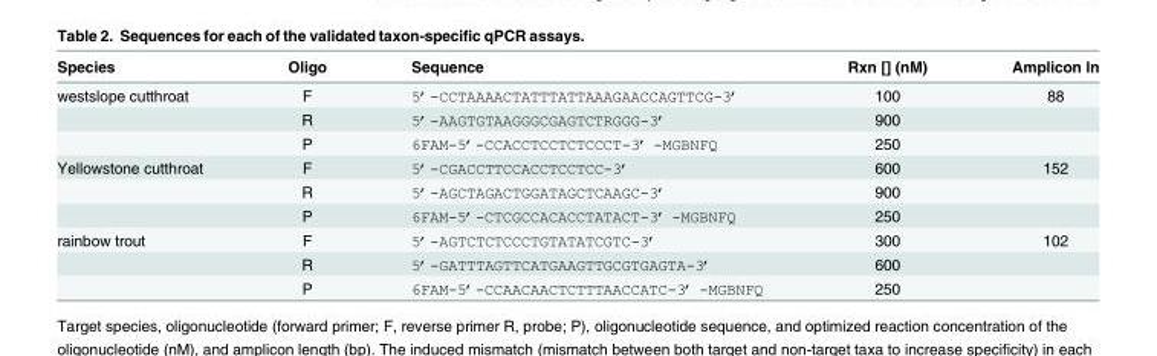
<table><thead><tr><td>Species</td><td>Oligo</td><td>Sequence</td><td>Rxn [] (nM)</td><td>Amplicon ln</td></tr></thead><tbody><tr><td rowspan="3">westslope cutthroat</td><td>F</td><td>5’-CCTAAAACTATTTATTAAAGAACCAGTTCG-3’</td><td>100</td><td>88</td></tr><tr><td>R</td><td>5’-AAGTGTAAGGGCGAGTCTRGGG-3’</td><td>900</td><td></td></tr><tr><td>P</td><td>6FAM-5’-CCACCTCCTCTCCCT-3’ -MGBNFQ</td><td>250</td><td></td></tr><tr><td rowspan="3">Yellowstone cutthroat</td><td>F</td><td>5’-CGACCTTCCACCTCCTCC-3’</td><td>600</td><td>152</td></tr><tr><td>R</td><td>5’-AGCTAGACTGGATAGCTCAAGC-3’</td><td>900</td><td></td></tr><tr><td>P</td><td>6FAM-5’-CTCGCCACACCTATACT-3’ -MGBNFQ</td><td>250</td><td></td></tr><tr><td rowspan="3">rainbow trout</td><td>F</td><td>5’-AGTCTCTCCCTGTATATCGTC-3’</td><td>300</td><td>102</td></tr><tr><td>R</td><td>5’-GATTTAGTTCATGAAGTTGCGTGAGTA-3’</td><td>600</td><td></td></tr><tr><td>P</td><td>6FAM-5’-CCAACAACTCTTTAACCATC-3’ -MGBNFQ</td><td>250</td><td></td></tr></tbody></table>